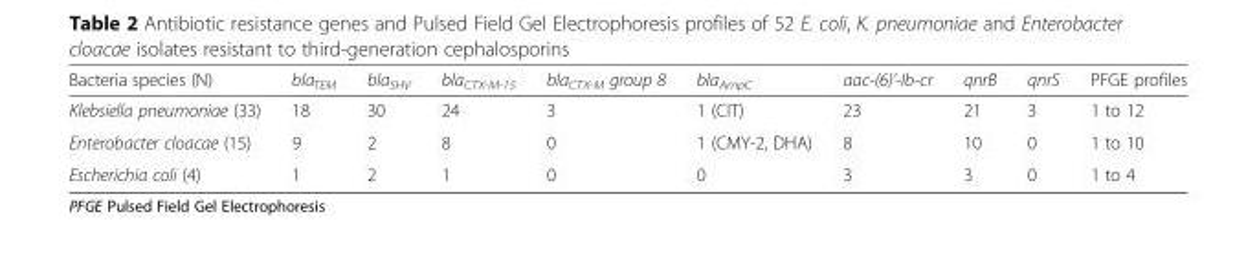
<table><thead><tr><td>Bacteria species (N)</td><td>bla<sub>TEM</sub></td><td>bla<sub>SHV</sub></td><td>bla<sub>CTX-M-15</sub></td><td>bla<sub>CTX-M</sub> group 8</td><td>bla<sub>AmpC</sub></td><td>aac-(6)’-Ib-cr</td><td>qnrB</td><td>qnrS</td><td>PFGE profiles</td></tr></thead><tbody><tr><td>Klebsiella pneumoniae (33)</td><td>18</td><td>30</td><td>24</td><td>3</td><td>1 (CIT)</td><td>23</td><td>21</td><td>3</td><td>1 to 12</td></tr><tr><td>Enterobacter cloacae (15)</td><td>9</td><td>2</td><td>8</td><td>0</td><td>1 (CMY-2, DHA)</td><td>8</td><td>10</td><td>0</td><td>1 to 10</td></tr><tr><td>Escherichia coli (4)</td><td>1</td><td>2</td><td>1</td><td>0</td><td>0</td><td>3</td><td>3</td><td>0</td><td>1 to 4</td></tr></tbody></table>